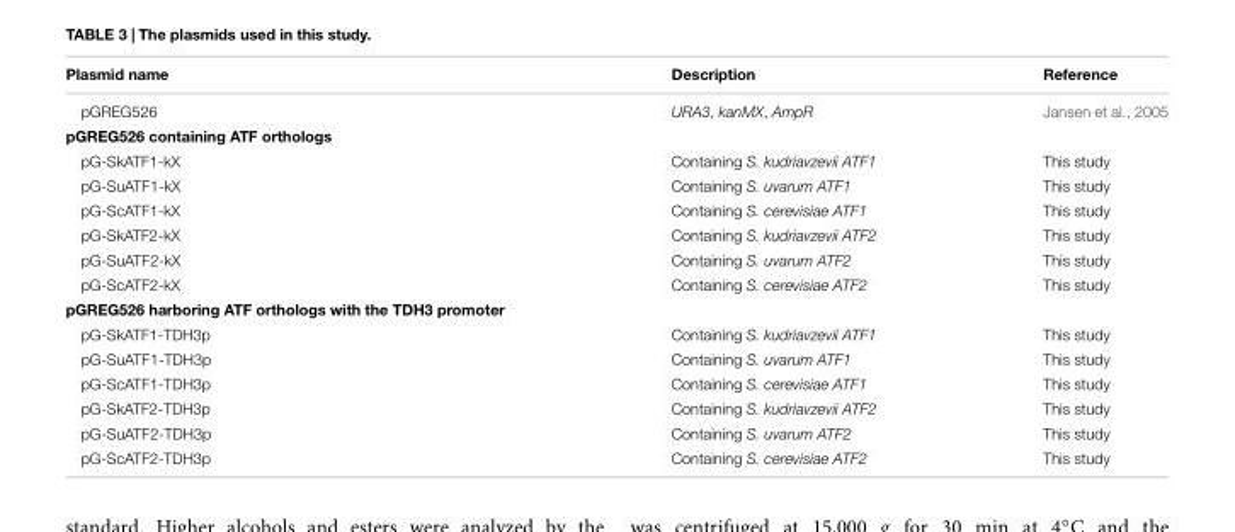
<table><thead><tr><td>Plasmid name</td><td>Description</td><td>Reference</td></tr></thead><tbody><tr><td>pGREG526</td><td>URA3, kanMX, AmpR</td><td>Jansen et al., 2005</td></tr><tr><td colspan="3">pGREG526 containing ATF orthologs</td></tr><tr><td>pG-SkATF1-kX</td><td>Containing S. kudriavzevii ATF1</td><td>This study</td></tr><tr><td>pG-SuATF1-kX</td><td>Containing S. uvarum ATF1</td><td>This study</td></tr><tr><td>pG-ScATF1-kX</td><td>Containing S. cerevisiae ATF1</td><td>This study</td></tr><tr><td>pG-SkATF2-kX</td><td>Containing S. kudriavzevii ATF2</td><td>This study</td></tr><tr><td>pG-SuATF2-kX</td><td>Containing S. uvarum ATF2</td><td>This study</td></tr><tr><td>pG-ScATF2-kX</td><td>Containing S. cerevisiae ATF2</td><td>This study</td></tr><tr><td colspan="3">pGREG526 harboring ATF orthologs with the TDH3 promoter</td></tr><tr><td>pG-SkATF1-TDH3p</td><td>Containing S. kudriavzevii ATF1</td><td>This study</td></tr><tr><td>pG-SuATF1-TDH3p</td><td>Containing S. uvarum ATF1</td><td>This study</td></tr><tr><td>pG-ScATF1-TDH3p</td><td>Containing S. cerevisiae ATF1</td><td>This study</td></tr><tr><td>pG-SkATF2-TDH3p</td><td>Containing S. kudriavzevii ATF2</td><td>This study</td></tr><tr><td>pG-SuATF2-TDH3p</td><td>Containing S. uvarum ATF2</td><td>This study</td></tr><tr><td>pG-ScATF2-TDH3p</td><td>Containing S. cerevisiae ATF2</td><td>This study</td></tr></tbody></table>